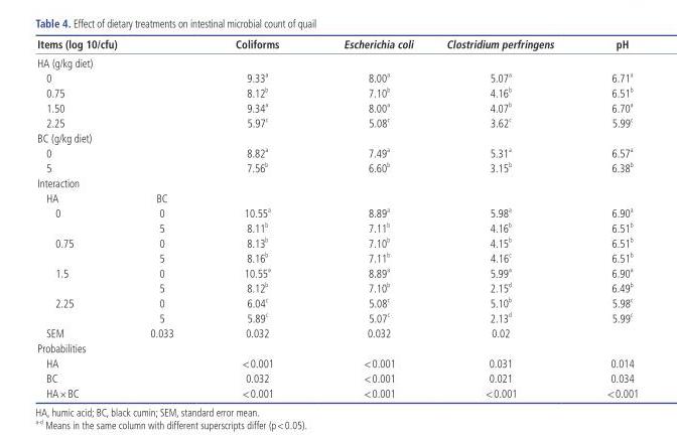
<table><thead><tr><td colspan="2">Items (log 10/cfu)</td><td>Coliforms</td><td>Escherichia coli</td><td>Clostridium perfringens</td><td>pH</td></tr><tr><td colspan="6">HA (g/kg diet)</td></tr><tr><td>0</td><td></td><td>9.33 <sup>a</sup></td><td>8.00 <sup>a</sup></td><td>5.07 <sup>a</sup></td><td>6.71 <sup>a</sup></td></tr></thead><tbody><tr><td>0.75</td><td></td><td>8.12 <sup>b</sup></td><td>7.10 <sup>b</sup></td><td>4.16 <sup>b</sup></td><td>6.51 <sup>b</sup></td></tr><tr><td>1.50</td><td></td><td>9.34 <sup>a</sup></td><td>8.00 <sup>a</sup></td><td>4.07 <sup>b</sup></td><td>6.70 <sup>a</sup></td></tr><tr><td>2.25</td><td></td><td>5.97 <sup>c</sup></td><td>5.08 <sup>c</sup></td><td>3.62 <sup>c</sup></td><td>5.99 <sup>c</sup></td></tr><tr><td colspan="6">BC (g/kg diet)</td></tr><tr><td>0</td><td></td><td>8.82 <sup>a</sup></td><td>7.49 <sup>a</sup></td><td>5.31 <sup>a</sup></td><td>6.57 <sup>a</sup></td></tr><tr><td>5</td><td></td><td>7.56 <sup>b</sup></td><td>6.60 <sup>b</sup></td><td>3.15 <sup>b</sup></td><td>6.38 <sup>b</sup></td></tr><tr><td colspan="6">Interaction</td></tr><tr><td>HA</td><td>BC</td><td></td><td></td><td></td><td></td></tr><tr><td rowspan="2">0</td><td>0</td><td>10.55 <sup>a</sup></td><td>8.89 <sup>a</sup></td><td>5.98 <sup>a</sup></td><td>6.90 <sup>a</sup></td></tr><tr><td>5</td><td>8.11 <sup>b</sup></td><td>7.11 <sup>b</sup></td><td>4.16 <sup>b</sup></td><td>6.51 <sup>b</sup></td></tr><tr><td rowspan="2">0.75</td><td>0</td><td>8.13 <sup>b</sup></td><td>7.10 <sup>b</sup></td><td>4.15 <sup>b</sup></td><td>6.51 <sup>b</sup></td></tr><tr><td>5</td><td>8.16 <sup>b</sup></td><td>7.11 <sup>b</sup></td><td>4.16 <sup>c</sup></td><td>6.51 <sup>b</sup></td></tr><tr><td rowspan="2">1.5</td><td>0</td><td>10.55 <sup>a</sup></td><td>8.89 <sup>a</sup></td><td>5.99 <sup>a</sup></td><td>6.90 <sup>a</sup></td></tr><tr><td>5</td><td>8.12 <sup>b</sup></td><td>7.10 <sup>b</sup></td><td>2.15 <sup>d</sup></td><td>6.49 <sup>b</sup></td></tr><tr><td rowspan="2">2.25</td><td>0</td><td>6.04 <sup>c</sup></td><td>5.08 <sup>c</sup></td><td>5.10 <sup>b</sup></td><td>5.98 <sup>c</sup></td></tr><tr><td>5</td><td>5.89 <sup>c</sup></td><td>5.07 <sup>c</sup></td><td>2.13 <sup>d</sup></td><td>5.99 <sup>c</sup></td></tr><tr><td>SEM</td><td>0.033</td><td>0.032</td><td>0.032</td><td>0.02</td><td></td></tr><tr><td colspan="6">Probabilities</td></tr><tr><td>HA</td><td></td><td>&lt;0.001</td><td>&lt;0.001</td><td>0.031</td><td>0.014</td></tr><tr><td>BC</td><td></td><td>0.032</td><td>&lt;0.001</td><td>0.021</td><td>0.034</td></tr><tr><td>HA×BC</td><td></td><td>&lt;0.001</td><td>&lt;0.001</td><td>&lt;0.001</td><td>&lt;0.001</td></tr></tbody></table>